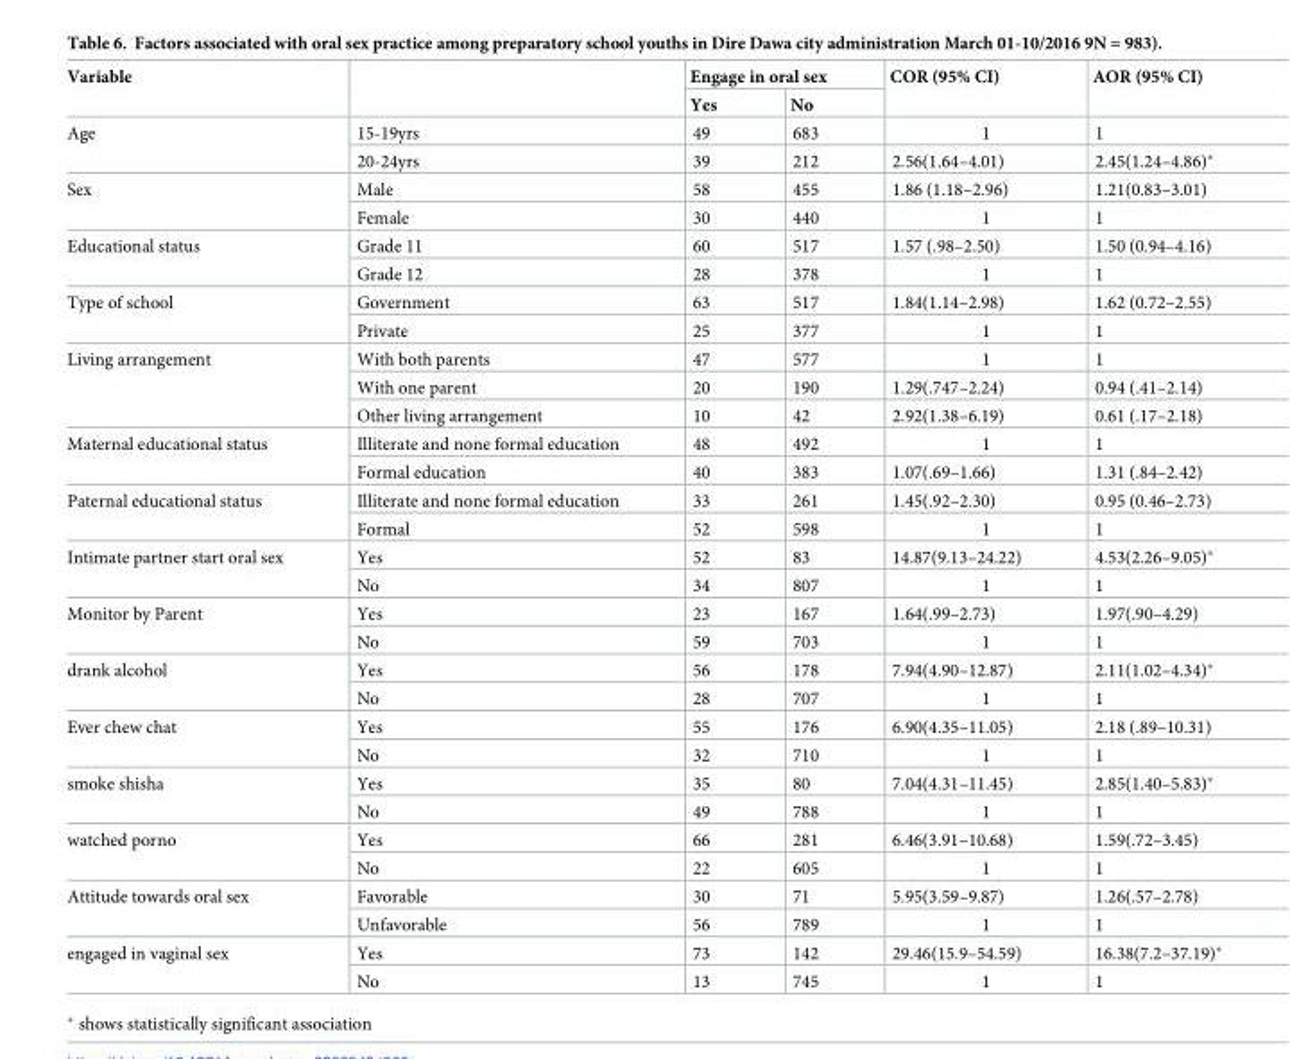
<table><thead><tr><td rowspan="2">Variable</td><td rowspan="2"></td><td colspan="2">Engage in oral sex</td><td rowspan="2">COR (95% CI)</td><td rowspan="2">AOR (95% CI)</td></tr><tr><td>Yes</td><td>No</td></tr></thead><tbody><tr><td rowspan="2">Age</td><td>15-19yrs</td><td>49</td><td>683</td><td>1</td><td>1</td></tr><tr><td>20-24yrs</td><td>39</td><td>212</td><td>2.56(1.64–4.01)</td><td>2.45(1.24–4.86)*</td></tr><tr><td rowspan="2">Sex</td><td>Male</td><td>58</td><td>455</td><td>1.86 (1.18–2.96)</td><td>1.21(0.83–3.01)</td></tr><tr><td>Female</td><td>30</td><td>440</td><td>1</td><td>1</td></tr><tr><td rowspan="2">Educational status</td><td>Grade 11</td><td>60</td><td>517</td><td>1.57 (.98–2.50)</td><td>1.50 (0.94–4.16)</td></tr><tr><td>Grade 12</td><td>28</td><td>378</td><td>1</td><td>1</td></tr><tr><td rowspan="2">Type of school</td><td>Government</td><td>63</td><td>517</td><td>1.84(1.14–2.98)</td><td>1.62 (0.72–2.55)</td></tr><tr><td>Private</td><td>25</td><td>377</td><td>1</td><td>1</td></tr><tr><td rowspan="3">Living arrangement</td><td>With both parents</td><td>47</td><td>577</td><td>1</td><td>1</td></tr><tr><td>With one parent</td><td>20</td><td>190</td><td>1.29(.747–2.24)</td><td>0.94 (.41–2.14)</td></tr><tr><td>Other living arrangement</td><td>10</td><td>42</td><td>2.92(1.38–6.19)</td><td>0.61 (.17–2.18)</td></tr><tr><td rowspan="2">Maternal educational status</td><td>Illiterate and none formal education</td><td>48</td><td>492</td><td>1</td><td>1</td></tr><tr><td>Formal education</td><td>40</td><td>383</td><td>1.07(.69–1.66)</td><td>1.31 (.84–2.42)</td></tr><tr><td rowspan="2">Paternal educational status</td><td>Illiterate and none formal education</td><td>33</td><td>261</td><td>1.45(.92–2.30)</td><td>0.95 (0.46–2.73)</td></tr><tr><td>Formal</td><td>52</td><td>598</td><td>1</td><td>1</td></tr><tr><td rowspan="2">Intimate partner start oral sex</td><td>Yes</td><td>52</td><td>83</td><td>14.87(9.13–24.22)</td><td>4.53(2.26–9.05)*</td></tr><tr><td>No</td><td>34</td><td>807</td><td>1</td><td>1</td></tr><tr><td rowspan="2">Monitor by Parent</td><td>Yes</td><td>23</td><td>167</td><td>1.64(.99–2.73)</td><td>1.97(.90–4.29)</td></tr><tr><td>No</td><td>59</td><td>703</td><td>1</td><td>1</td></tr><tr><td rowspan="2">drank alcohol</td><td>Yes</td><td>56</td><td>178</td><td>7.94(4.90–12.87)</td><td>2.11(1.02–4.34)*</td></tr><tr><td>No</td><td>28</td><td>707</td><td>1</td><td>1</td></tr><tr><td rowspan="2">Ever chew chat</td><td>Yes</td><td>55</td><td>176</td><td>6.90(4.35–11.05)</td><td>2.18 (.89–10.31)</td></tr><tr><td>No</td><td>32</td><td>710</td><td>1</td><td>1</td></tr><tr><td rowspan="2">smoke shisha</td><td>Yes</td><td>35</td><td>80</td><td>7.04(4.31–11.45)</td><td>2.85(1.40–5.83)*</td></tr><tr><td>No</td><td>49</td><td>788</td><td>1</td><td>1</td></tr><tr><td rowspan="2">watched porno</td><td>Yes</td><td>66</td><td>281</td><td>6.46(3.91–10.68)</td><td>1.59(.72–3.45)</td></tr><tr><td>No</td><td>22</td><td>605</td><td>1</td><td>1</td></tr><tr><td rowspan="2">Attitude towards oral sex</td><td>Favorable</td><td>30</td><td>71</td><td>5.95(3.59–9.87)</td><td>1.26(.57–2.78)</td></tr><tr><td>Unfavorable</td><td>56</td><td>789</td><td>1</td><td>1</td></tr><tr><td rowspan="2">engaged in vaginal sex</td><td>Yes</td><td>73</td><td>142</td><td>29.46(15.9–54.59)</td><td>16.38(7.2–37.19)*</td></tr><tr><td>No</td><td>13</td><td>745</td><td>1</td><td>1</td></tr></tbody></table>